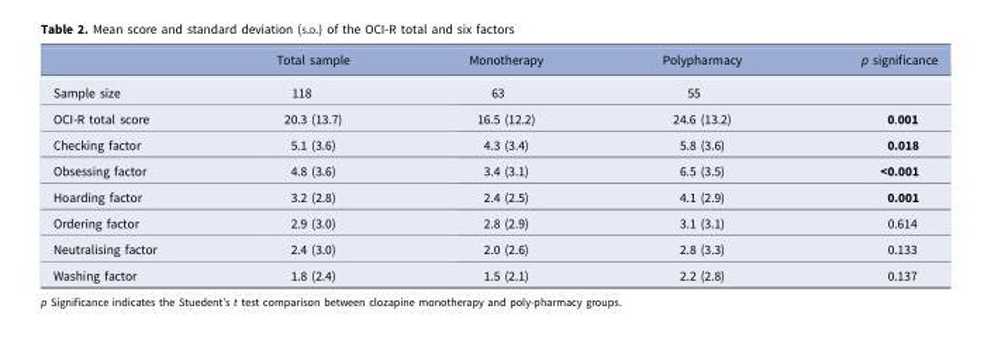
<table><thead><tr><td></td><td>Total sample</td><td>Monotherapy</td><td>Polypharmacy</td><td>p significance</td></tr></thead><tbody><tr><td>Sample size</td><td>118</td><td>63</td><td>55</td><td></td></tr><tr><td>OCI-R total score</td><td>20.3 (13.7)</td><td>16.5 (12.2)</td><td>24.6 (13.2)</td><td>0.001</td></tr><tr><td>Checking factor</td><td>5.1 (3.6)</td><td>4.3 (3.4)</td><td>5.8 (3.6)</td><td>0.018</td></tr><tr><td>Obsessing factor</td><td>4.8 (3.6)</td><td>3.4 (3.1)</td><td>6.5 (3.5)</td><td>&lt;0.001</td></tr><tr><td>Hoarding factor</td><td>3.2 (2.8)</td><td>2.4 (2.5)</td><td>4.1 (2.9)</td><td>0.001</td></tr><tr><td>Ordering factor</td><td>2.9 (3.0)</td><td>2.8 (2.9)</td><td>3.1 (3.1)</td><td>0.614</td></tr><tr><td>Neutralising factor</td><td>2.4 (3.0)</td><td>2.0 (2.6)</td><td>2.8 (3.3)</td><td>0.133</td></tr><tr><td>Washing factor</td><td>1.8 (2.4)</td><td>1.5 (2.1)</td><td>2.2 (2.8)</td><td>0.137</td></tr></tbody></table>